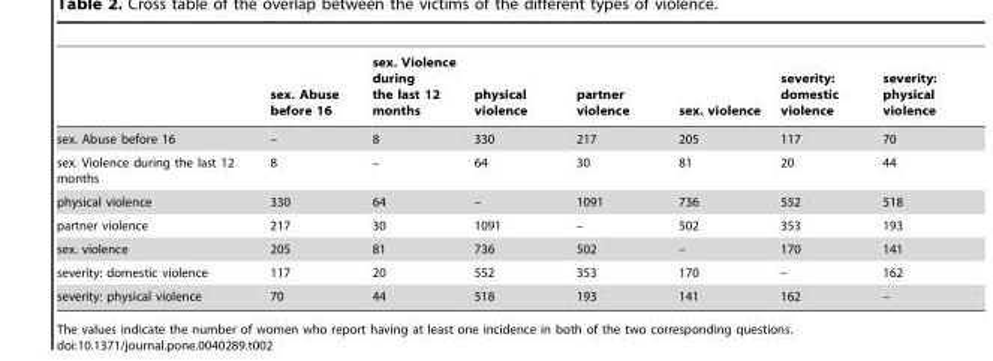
<table><thead><tr><td></td><td>sex. Abuse before 16</td><td>sex. Violence during the last 12 months</td><td>physical violence</td><td>partner violence</td><td>sex. violence</td><td>severity: domestic violence</td><td>severity: physical violence</td></tr></thead><tbody><tr><td>sex. Abuse before 16</td><td>–</td><td>8</td><td>330</td><td>217</td><td>205</td><td>117</td><td>70</td></tr><tr><td>sex. Violence during the last 12 months</td><td>8</td><td>–</td><td>64</td><td>30</td><td>81</td><td>20</td><td>44</td></tr><tr><td>physical violence</td><td>330</td><td>64</td><td>–</td><td>1091</td><td>736</td><td>552</td><td>518</td></tr><tr><td>partner violence</td><td>217</td><td>30</td><td>1091</td><td>–</td><td>502</td><td>353</td><td>193</td></tr><tr><td>sex. violence</td><td>205</td><td>81</td><td>736</td><td>502</td><td>–</td><td>170</td><td>141</td></tr><tr><td>severity: domestic violence</td><td>117</td><td>20</td><td>552</td><td>353</td><td>170</td><td>–</td><td>162</td></tr><tr><td>severity: physical violence</td><td>70</td><td>44</td><td>518</td><td>193</td><td>141</td><td>162</td><td>–</td></tr></tbody></table>